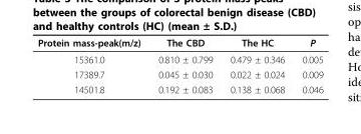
<table><thead><tr><td>Protein mass-peak(m/z)</td><td>The CBD</td><td>The HC</td><td>P</td></tr></thead><tbody><tr><td>15361.0</td><td>0.810 ± 0.799</td><td>0.479 ± 0.346</td><td>0.005</td></tr><tr><td>17389.7</td><td>0.045 ± 0.030</td><td>0.022 ± 0.024</td><td>0.009</td></tr><tr><td>14501.8</td><td>0.192 ± 0.083</td><td>0.138 ± 0.068</td><td>0.046</td></tr></tbody></table>